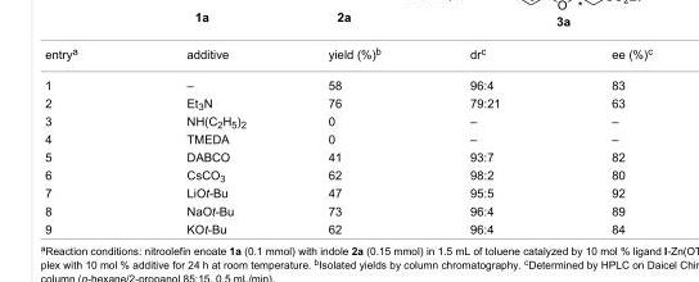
<table><tbody><tr><td>entry<sup>a</sup></td><td>additive</td><td>yield (%)<sup>b</sup></td><td>dr<sup>c</sup></td><td>ee (%)<sup>c</sup></td></tr><tr><td>1</td><td>–</td><td>58</td><td>96:4</td><td>83</td></tr><tr><td>2</td><td>Et<sub>3</sub>N</td><td>76</td><td>79:21</td><td>63</td></tr><tr><td>3</td><td>NH(C<sub>2</sub>H<sub>5</sub>)<sub>2</sub></td><td>0</td><td>–</td><td>–</td></tr><tr><td>4</td><td>TMEDA</td><td>0</td><td>–</td><td>–</td></tr><tr><td>5</td><td>DABCO</td><td>41</td><td>93:7</td><td>82</td></tr><tr><td>6</td><td>CsCO<sub>3</sub></td><td>62</td><td>98:2</td><td>80</td></tr><tr><td>7</td><td>LiOt-Bu</td><td>47</td><td>95:5</td><td>92</td></tr><tr><td>8</td><td>NaOt-Bu</td><td>73</td><td>96:4</td><td>89</td></tr><tr><td>9</td><td>KOt-Bu</td><td>62</td><td>96:4</td><td>84</td></tr></tbody></table>